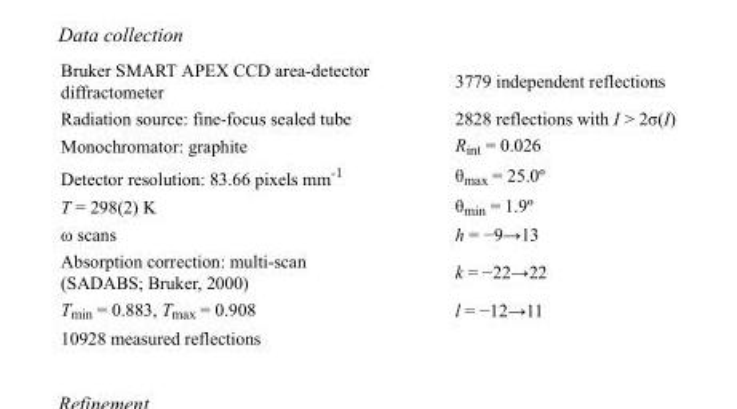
<table><tbody><tr><td>Bruker SMART APEX CCD area-detector diffractometer</td><td>3779 independent reflections</td></tr><tr><td>Radiation source: fine-focus sealed tube</td><td>2828 reflections with I &gt; 2σ(I)</td></tr><tr><td>Monochromator: graphite</td><td>R<sub>int</sub> = 0.026</td></tr><tr><td>Detector resolution: 83.66 pixels mm<sup>-1</sup></td><td>θ<sub>max</sub> = 25.0º</td></tr><tr><td>T = 298(2) K</td><td>θ<sub>min</sub> = 1.9º</td></tr><tr><td>ω scans</td><td>h = −9→13</td></tr><tr><td>Absorption correction: multi-scan (SADABS; Bruker, 2000)</td><td>k = −22→22</td></tr><tr><td>T<sub>min</sub> = 0.883, T<sub>max</sub> = 0.908</td><td>l = −12→11</td></tr><tr><td>10928 measured reflections</td><td></td></tr></tbody></table>